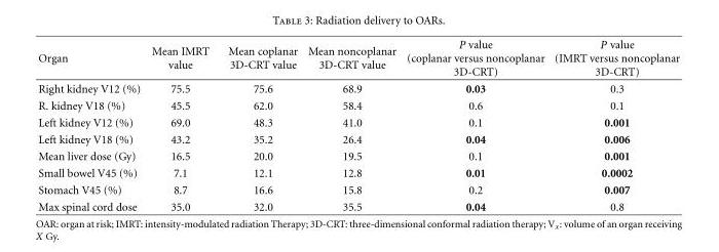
<table><thead><tr><td>Organ</td><td>Mean IMRT value</td><td>Mean coplanar 3D-CRT value</td><td>Mean noncoplanar 3D-CRT value</td><td>P value (coplanar versus noncoplanar 3D-CRT)</td><td>P value (IMRT versus noncoplanar 3D-CRT)</td></tr></thead><tbody><tr><td>Right kidney V12 (%)</td><td>75.5</td><td>75.6</td><td>68.9</td><td>0.03</td><td>0.3</td></tr><tr><td>R. kidney V18 (%)</td><td>45.5</td><td>62.0</td><td>58.4</td><td>0.6</td><td>0.1</td></tr><tr><td>Left kidney V12 (%)</td><td>69.0</td><td>48.3</td><td>41.0</td><td>0.1</td><td>0.001</td></tr><tr><td>Left kidney V18 (%)</td><td>43.2</td><td>35.2</td><td>26.4</td><td>0.04</td><td>0.006</td></tr><tr><td>Mean liver dose (Gy)</td><td>16.5</td><td>20.0</td><td>19.5</td><td>0.1</td><td>0.001</td></tr><tr><td>Small bowel V45 (%)</td><td>7.1</td><td>12.1</td><td>12.8</td><td>0.01</td><td>0.0002</td></tr><tr><td>Stomach V45 (%)</td><td>8.7</td><td>16.6</td><td>15.8</td><td>0.2</td><td>0.007</td></tr><tr><td>Max spinal cord dose</td><td>35.0</td><td>32.0</td><td>35.5</td><td>0.04</td><td>0.8</td></tr></tbody></table>